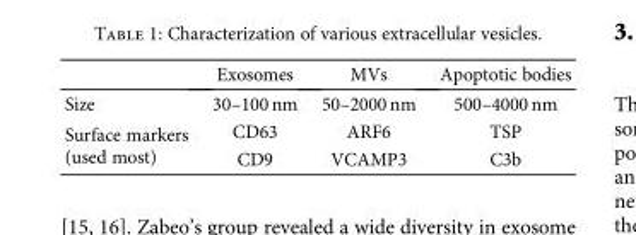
<table><thead><tr><td></td><td>Exosomes</td><td>MVs</td><td>Apoptotic bodies</td></tr></thead><tbody><tr><td>Size</td><td>30–100 nm</td><td>50–2000 nm</td><td>500–4000 nm</td></tr><tr><td rowspan="2">Surface markers (used most)</td><td>CD63</td><td>ARF6</td><td>TSP</td></tr><tr><td>CD9</td><td>VCAMP3</td><td>C3b</td></tr></tbody></table>